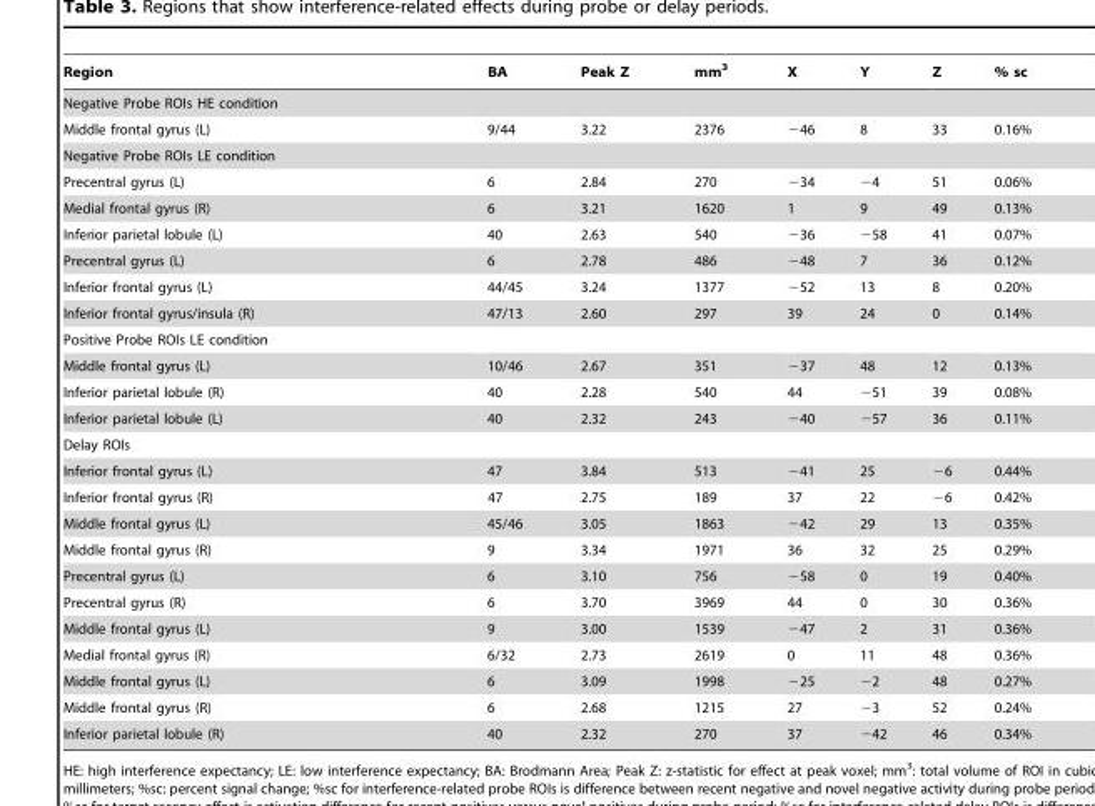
<table><thead><tr><td>Region</td><td>BA</td><td>Peak Z</td><td>mm<sup>3</sup></td><td>X</td><td>Y</td><td>Z</td><td>% sc</td></tr></thead><tbody><tr><td colspan="8">Negative Probe ROIs HE condition</td></tr><tr><td>Middle frontal gyrus (L)</td><td>9/44</td><td>3.22</td><td>2376</td><td>−46</td><td>8</td><td>33</td><td>0.16%</td></tr><tr><td colspan="8">Negative Probe ROIs LE condition</td></tr><tr><td>Precentral gyrus (L)</td><td>6</td><td>2.84</td><td>270</td><td>−34</td><td>−4</td><td>51</td><td>0.06%</td></tr><tr><td>Medial frontal gyrus (R)</td><td>6</td><td>3.21</td><td>1620</td><td>1</td><td>9</td><td>49</td><td>0.13%</td></tr><tr><td>Inferior parietal lobule (L)</td><td>40</td><td>2.63</td><td>540</td><td>−36</td><td>−58</td><td>41</td><td>0.07%</td></tr><tr><td>Precentral gyrus (L)</td><td>6</td><td>2.78</td><td>486</td><td>−48</td><td>7</td><td>36</td><td>0.12%</td></tr><tr><td>Inferior frontal gyrus (L)</td><td>44/45</td><td>3.24</td><td>1377</td><td>−52</td><td>13</td><td>8</td><td>0.20%</td></tr><tr><td>Inferior frontal gyrus/insula (R)</td><td>47/13</td><td>2.60</td><td>297</td><td>39</td><td>24</td><td>0</td><td>0.14%</td></tr><tr><td colspan="8">Positive Probe ROIs LE condition</td></tr><tr><td>Middle frontal gyrus (L)</td><td>10/46</td><td>2.67</td><td>351</td><td>−37</td><td>48</td><td>12</td><td>0.13%</td></tr><tr><td>Inferior parietal lobule (R)</td><td>40</td><td>2.28</td><td>540</td><td>44</td><td>−51</td><td>39</td><td>0.08%</td></tr><tr><td>Inferior parietal lobule (L)</td><td>40</td><td>2.32</td><td>243</td><td>−40</td><td>−57</td><td>36</td><td>0.11%</td></tr><tr><td colspan="8">Delay ROIs</td></tr><tr><td>Inferior frontal gyrus (L)</td><td>47</td><td>3.84</td><td>513</td><td>−41</td><td>25</td><td>−6</td><td>0.44%</td></tr><tr><td>Inferior frontal gyrus (R)</td><td>47</td><td>2.75</td><td>189</td><td>37</td><td>22</td><td>−6</td><td>0.42%</td></tr><tr><td>Middle frontal gyrus (L)</td><td>45/46</td><td>3.05</td><td>1863</td><td>−42</td><td>29</td><td>13</td><td>0.35%</td></tr><tr><td>Middle frontal gyrus (R)</td><td>9</td><td>3.34</td><td>1971</td><td>36</td><td>32</td><td>25</td><td>0.29%</td></tr><tr><td>Precentral gyrus (L)</td><td>6</td><td>3.10</td><td>756</td><td>−58</td><td>0</td><td>19</td><td>0.40%</td></tr><tr><td>Precentral gyrus (R)</td><td>6</td><td>3.70</td><td>3969</td><td>44</td><td>0</td><td>30</td><td>0.36%</td></tr><tr><td>Middle frontal gyrus (L)</td><td>9</td><td>3.00</td><td>1539</td><td>−47</td><td>2</td><td>31</td><td>0.36%</td></tr><tr><td>Medial frontal gyrus (R)</td><td>6/32</td><td>2.73</td><td>2619</td><td>0</td><td>11</td><td>48</td><td>0.36%</td></tr><tr><td>Middle frontal gyrus (L)</td><td>6</td><td>3.09</td><td>1998</td><td>−25</td><td>−2</td><td>48</td><td>0.27%</td></tr><tr><td>Middle frontal gyrus (R)</td><td>6</td><td>2.68</td><td>1215</td><td>27</td><td>−3</td><td>52</td><td>0.24%</td></tr><tr><td>Inferior parietal lobule (R)</td><td>40</td><td>2.32</td><td>270</td><td>37</td><td>−42</td><td>46</td><td>0.34%</td></tr></tbody></table>